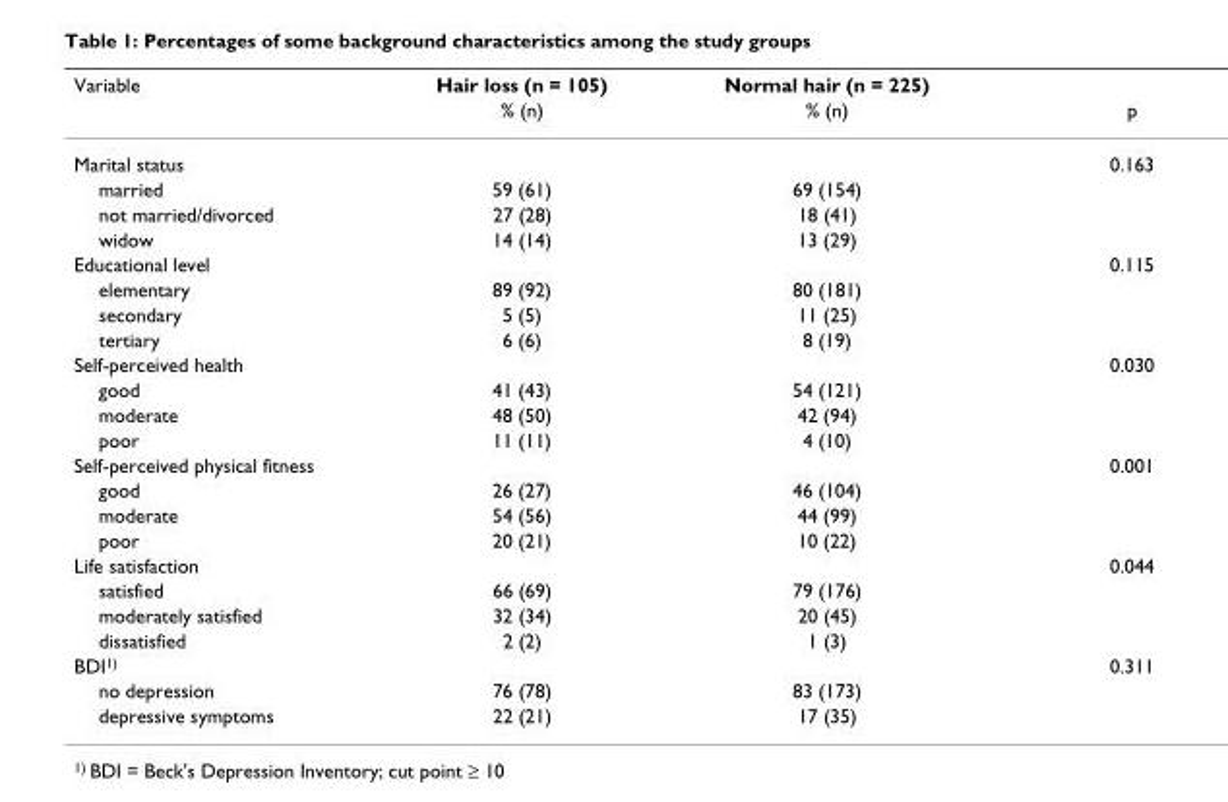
<table><thead><tr><td rowspan="2">Variable</td><td rowspan="2">Hair loss (n = 105) % (n)</td><td rowspan="2">Normal hair (n = 225) % (n)</td><td rowspan="2">p</td></tr><tr></tr></thead><tbody><tr><td>Marital status</td><td></td><td></td><td>0.163</td></tr><tr><td>married</td><td>59 (61)</td><td>69 (154)</td><td></td></tr><tr><td>not married/divorced</td><td>27 (28)</td><td>18 (41)</td><td></td></tr><tr><td>widow</td><td>14 (14)</td><td>13 (29)</td><td></td></tr><tr><td>Educational level</td><td></td><td></td><td>0.115</td></tr><tr><td>elementary</td><td>89 (92)</td><td>80 (181)</td><td></td></tr><tr><td>secondary</td><td>5 (5)</td><td>11 (25)</td><td></td></tr><tr><td>tertiary</td><td>6 (6)</td><td>8 (19)</td><td></td></tr><tr><td>Self-perceived health</td><td></td><td></td><td>0.030</td></tr><tr><td>good</td><td>41 (43)</td><td>54 (121)</td><td></td></tr><tr><td>moderate</td><td>48 (50)</td><td>42 (94)</td><td></td></tr><tr><td>poor</td><td>11 (11)</td><td>4 (10)</td><td></td></tr><tr><td>Self-perceived physical fitness</td><td></td><td></td><td>0.001</td></tr><tr><td>good</td><td>26 (27)</td><td>46 (104)</td><td></td></tr><tr><td>moderate</td><td>54 (56)</td><td>44 (99)</td><td></td></tr><tr><td>poor</td><td>20 (21)</td><td>10 (22)</td><td></td></tr><tr><td>Life satisfaction</td><td></td><td></td><td>0.044</td></tr><tr><td>satisfied</td><td>66 (69)</td><td>79 (176)</td><td></td></tr><tr><td>moderately satisfied</td><td>32 (34)</td><td>20 (45)</td><td></td></tr><tr><td>dissatisfied</td><td>2 (2)</td><td>1 (3)</td><td></td></tr><tr><td>BDI<sup>1)</sup></td><td></td><td></td><td>0.311</td></tr><tr><td>no depression</td><td>76 (78)</td><td>83 (173)</td><td></td></tr><tr><td>depressive symptoms</td><td>22 (21)</td><td>17 (35)</td><td></td></tr></tbody></table>